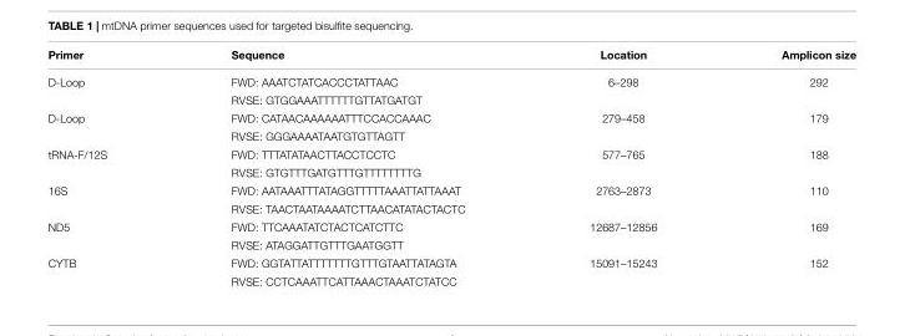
<table><thead><tr><td>Primer</td><td>Sequence</td><td>Location</td><td>Amplicon size</td></tr></thead><tbody><tr><td rowspan="2">D-Loop</td><td>FWD: AAATCTATCACCCTATTAAC</td><td>6–298</td><td>292</td></tr><tr><td>RVSE: GTGGAAATTTTTTGTTATGATGT</td><td></td><td></td></tr><tr><td rowspan="2">D-Loop</td><td>FWD: CATAACAAAAAATTTCCACCAAAC</td><td>279–458</td><td>179</td></tr><tr><td>RVSE: GGGAAAATAATGTGTTAGTT</td><td></td><td></td></tr><tr><td rowspan="2">tRNA-F/12S</td><td>FWD: TTTATATAACTTACCTCCTC</td><td>577–765</td><td>188</td></tr><tr><td>RVSE: GTGTTTGATGTTTGTTTTTTTTG</td><td></td><td></td></tr><tr><td rowspan="2">16S</td><td>FWD: AATAAATTTATAGGTTTTTAAATTATTAAAT</td><td>2763–2873</td><td>110</td></tr><tr><td>RVSE: TAACTAATAAAATCTTAACATATACTACTC</td><td></td><td></td></tr><tr><td rowspan="2">ND5</td><td>FWD: TTCAAATATCTACTCATCTTC</td><td>12687–12856</td><td>169</td></tr><tr><td>RVSE: ATAGGATTGTTTGAATGGTT</td><td></td><td></td></tr><tr><td rowspan="2">CYTB</td><td>FWD: GGTATTATTTTTTTGTTTGTAATTATAGTA</td><td>15091–15243</td><td>152</td></tr><tr><td>RVSE: CCTCAAATTCATTAAACTAAATCTATCC</td><td></td><td></td></tr></tbody></table>